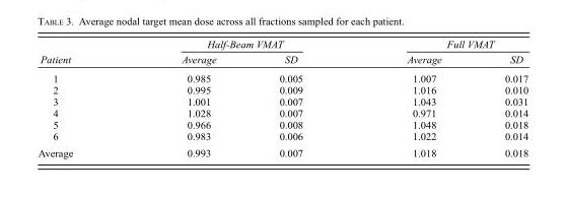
<table><thead><tr><td rowspan="2">Patient</td><td colspan="2">Half-Beam VMAT</td><td colspan="2">Full VMAT</td></tr><tr><td>Average</td><td>SD</td><td>Average</td><td>SD</td></tr></thead><tbody><tr><td>1</td><td>0.985</td><td>0.005</td><td>1.007</td><td>0.017</td></tr><tr><td>2</td><td>0.995</td><td>0.009</td><td>1.016</td><td>0.010</td></tr><tr><td>3</td><td>1.001</td><td>0.007</td><td>1.043</td><td>0.031</td></tr><tr><td>4</td><td>1.028</td><td>0.007</td><td>0.971</td><td>0.014</td></tr><tr><td>5</td><td>0.966</td><td>0.008</td><td>1.048</td><td>0.018</td></tr><tr><td>6</td><td>0.983</td><td>0.006</td><td>1.022</td><td>0.014</td></tr><tr><td>Average</td><td>0.993</td><td>0.007</td><td>1.018</td><td>0.018</td></tr></tbody></table>